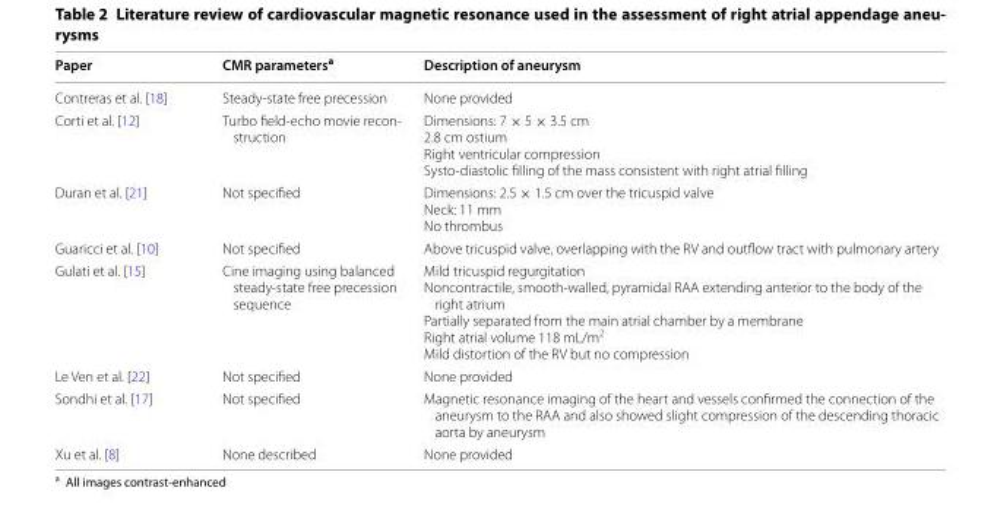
<table><thead><tr><td>Paper</td><td>CMR parameters<sup>a</sup></td><td>Description of aneurysm</td></tr></thead><tbody><tr><td>Contreras et al. [18]</td><td>Steady-state free precession</td><td>None provided</td></tr><tr><td>Corti et al. [12]</td><td>Turbo field-echo movie recon- struction</td><td>Dimensions: 7 × 5 × 3.5 cm 2.8 cm ostium Right ventricular compression Systo-diastolic filling of the mass consistent with right atrial filling</td></tr><tr><td>Duran et al. [21]</td><td>Not specified</td><td>Dimensions: 2.5 × 1.5 cm over the tricuspid valve Neck: 11 mm No thrombus</td></tr><tr><td>Guaricci et al. [10]</td><td>Not specified</td><td>Above tricuspid valve, overlapping with the RV and outflow tract with pulmonary artery</td></tr><tr><td>Gulati et al. [15]</td><td>Cine imaging using balanced steady-state free precession sequence</td><td>Mild tricuspid regurgitation Noncontractile, smooth-walled, pyramidal RAA extending anterior to the body of the right atrium Partially separated from the main atrial chamber by a membrane Right atrial volume 118 mL/m<sup>2</sup> Mild distortion of the RV but no compression</td></tr><tr><td>Le Ven et al. [22]</td><td>Not specified</td><td>None provided</td></tr><tr><td>Sondhi et al. [17]</td><td>Not specified</td><td>Magnetic resonance imaging of the heart and vessels confirmed the connection of the aneurysm to the RAA and also showed slight compression of the descending thoracic aorta by aneurysm</td></tr><tr><td>Xu et al. [8]</td><td>None described</td><td>None provided</td></tr></tbody></table>